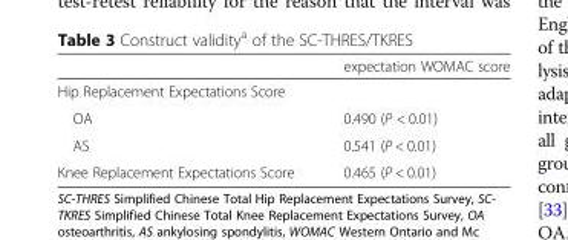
<table><thead><tr><td></td><td>expectation WOMAC score</td></tr></thead><tbody><tr><td colspan="2">Hip Replacement Expectations Score</td></tr><tr><td>OA</td><td>0.490 (P &lt; 0.01)</td></tr><tr><td>AS</td><td>0.541 (P &lt; 0.01)</td></tr><tr><td>Knee Replacement Expectations Score</td><td>0.465 (P &lt; 0.01)</td></tr></tbody></table>